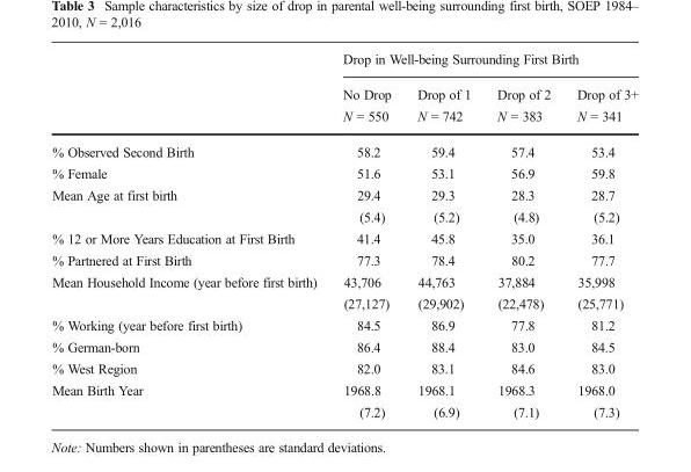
<table><thead><tr><td rowspan="3"></td><td colspan="4">Drop in Well-being Surrounding First Birth</td></tr><tr><td rowspan="2">No Drop N = 550</td><td rowspan="2">Drop of 1 N = 742</td><td rowspan="2">Drop of 2 N = 383</td><td rowspan="2">Drop of 3+ N = 341</td></tr><tr></tr></thead><tbody><tr><td>% Observed Second Birth</td><td>58.2</td><td>59.4</td><td>57.4</td><td>53.4</td></tr><tr><td>% Female</td><td>51.6</td><td>53.1</td><td>56.9</td><td>59.8</td></tr><tr><td rowspan="2">Mean Age at first birth</td><td>29.4</td><td>29.3</td><td>28.3</td><td>28.7</td></tr><tr><td>(5.4)</td><td>(5.2)</td><td>(4.8)</td><td>(5.2)</td></tr><tr><td>% 12 or More Years Education at First Birth</td><td>41.4</td><td>45.8</td><td>35.0</td><td>36.1</td></tr><tr><td>% Partnered at First Birth</td><td>77.3</td><td>78.4</td><td>80.2</td><td>77.7</td></tr><tr><td rowspan="2">Mean Household Income (year before first birth)</td><td>43,706</td><td>44,763</td><td>37,884</td><td>35,998</td></tr><tr><td>(27,127)</td><td>(29,902)</td><td>(22,478)</td><td>(25,771)</td></tr><tr><td>% Working (year before first birth)</td><td>84.5</td><td>86.9</td><td>77.8</td><td>81.2</td></tr><tr><td>% German-born</td><td>86.4</td><td>88.4</td><td>83.0</td><td>84.5</td></tr><tr><td>% West Region</td><td>82.0</td><td>83.1</td><td>84.6</td><td>83.0</td></tr><tr><td rowspan="2">Mean Birth Year</td><td>1968.8</td><td>1968.1</td><td>1968.3</td><td>1968.0</td></tr><tr><td>(7.2)</td><td>(6.9)</td><td>(7.1)</td><td>(7.3)</td></tr></tbody></table>